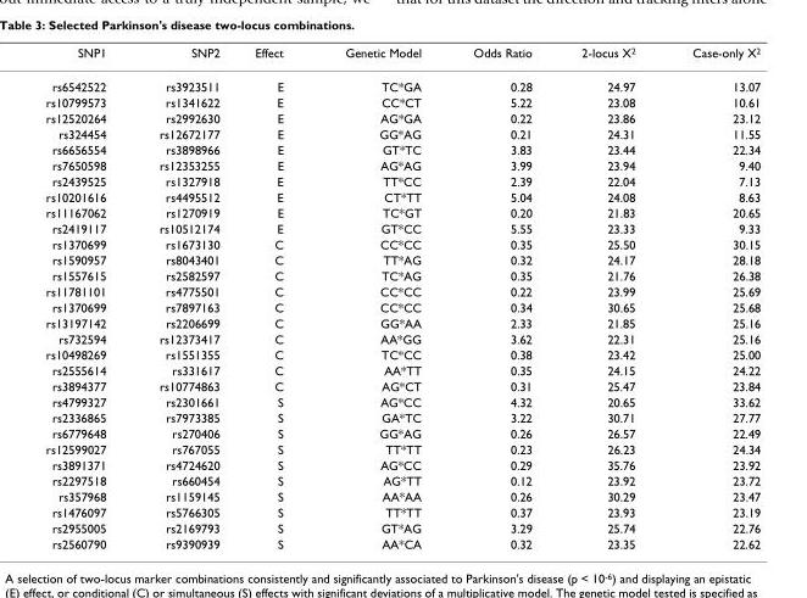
<table><thead><tr><td>SNP1</td><td>SNP2</td><td>Effect</td><td>Genetic Model</td><td>Odds Ratio</td><td>2-locus X<sup>2</sup></td><td>Case-only X<sup>2</sup></td></tr></thead><tbody><tr><td>rs6542522</td><td>rs3923511</td><td>E</td><td>TC*GA</td><td>0.28</td><td>24.97</td><td>13.07</td></tr><tr><td>rs10799573</td><td>rs1341622</td><td>E</td><td>CC*CT</td><td>5.22</td><td>23.08</td><td>10.61</td></tr><tr><td>rs12520264</td><td>rs2992630</td><td>E</td><td>AG*GA</td><td>0.22</td><td>23.86</td><td>23.12</td></tr><tr><td>rs324454</td><td>rs12672177</td><td>E</td><td>GG*AG</td><td>0.21</td><td>24.31</td><td>11.55</td></tr><tr><td>rs6656554</td><td>rs3898966</td><td>E</td><td>GT*TC</td><td>3.83</td><td>23.44</td><td>22.34</td></tr><tr><td>rs7650598</td><td>rs12353255</td><td>E</td><td>AG*AG</td><td>3.99</td><td>23.94</td><td>9.40</td></tr><tr><td>rs2439525</td><td>rs1327918</td><td>E</td><td>TT*CC</td><td>2.39</td><td>22.04</td><td>7.13</td></tr><tr><td>rs10201616</td><td>rs4495512</td><td>E</td><td>CT*TT</td><td>5.04</td><td>24.08</td><td>8.63</td></tr><tr><td>rs11167062</td><td>rs1270919</td><td>E</td><td>TC*GT</td><td>0.20</td><td>21.83</td><td>20.65</td></tr><tr><td>rs2419117</td><td>rs10512174</td><td>E</td><td>GT*CC</td><td>5.55</td><td>23.33</td><td>9.33</td></tr><tr><td>rs1370699</td><td>rs1673130</td><td>C</td><td>CC*CC</td><td>0.35</td><td>25.50</td><td>30.15</td></tr><tr><td>rs1590957</td><td>rs8043401</td><td>C</td><td>TT*AG</td><td>0.32</td><td>24.17</td><td>28.18</td></tr><tr><td>rs1557615</td><td>rs2582597</td><td>C</td><td>TC*AG</td><td>0.35</td><td>21.76</td><td>26.38</td></tr><tr><td>rs11781101</td><td>rs4775501</td><td>C</td><td>CC*CC</td><td>0.22</td><td>23.99</td><td>25.69</td></tr><tr><td>rs1370699</td><td>rs7897163</td><td>C</td><td>CC*CC</td><td>0.34</td><td>30.65</td><td>25.68</td></tr><tr><td>rs13197142</td><td>rs2206699</td><td>C</td><td>GG*AA</td><td>2.33</td><td>21.85</td><td>25.16</td></tr><tr><td>rs732594</td><td>rs12373417</td><td>C</td><td>AA*GG</td><td>3.62</td><td>22.31</td><td>25.16</td></tr><tr><td>rs10498269</td><td>rs1551355</td><td>C</td><td>TC*CC</td><td>0.38</td><td>23.42</td><td>25.00</td></tr><tr><td>rs2555614</td><td>rs331617</td><td>C</td><td>AA*TT</td><td>0.35</td><td>24.15</td><td>24.22</td></tr><tr><td>rs3894377</td><td>rs10774863</td><td>C</td><td>AG*CT</td><td>0.31</td><td>25.47</td><td>23.84</td></tr><tr><td>rs4799327</td><td>rs2301661</td><td>S</td><td>AG*CC</td><td>4.32</td><td>20.65</td><td>33.62</td></tr><tr><td>rs2336865</td><td>rs7973385</td><td>S</td><td>GA*TC</td><td>3.22</td><td>30.71</td><td>27.77</td></tr><tr><td>rs6779648</td><td>rs270406</td><td>S</td><td>GG*AG</td><td>0.26</td><td>26.57</td><td>22.49</td></tr><tr><td>rs12599027</td><td>rs767055</td><td>S</td><td>TT*TT</td><td>0.23</td><td>26.23</td><td>24.34</td></tr><tr><td>rs3891371</td><td>rs4724620</td><td>S</td><td>AG*CC</td><td>0.29</td><td>35.76</td><td>23.92</td></tr><tr><td>rs2297518</td><td>rs660454</td><td>S</td><td>AG*TT</td><td>0.12</td><td>23.92</td><td>23.72</td></tr><tr><td>rs357968</td><td>rs1159145</td><td>S</td><td>AA*AA</td><td>0.26</td><td>30.29</td><td>23.47</td></tr><tr><td>rs1476097</td><td>rs5766305</td><td>S</td><td>TT*TT</td><td>0.37</td><td>23.93</td><td>23.19</td></tr><tr><td>rs2955005</td><td>rs2169793</td><td>S</td><td>GT*AG</td><td>3.29</td><td>25.74</td><td>22.76</td></tr><tr><td>rs2560790</td><td>rs9390939</td><td>S</td><td>AA*CA</td><td>0.32</td><td>23.35</td><td>22.62</td></tr></tbody></table>